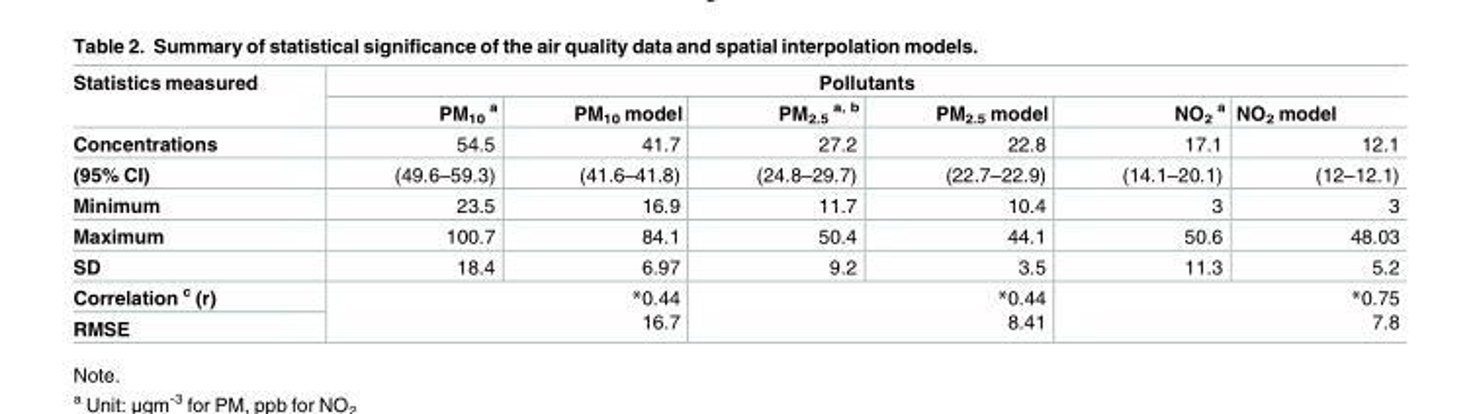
<table><thead><tr><td rowspan="2">Statistics measured</td><td colspan="6">Pollutants</td></tr><tr><td>PM<sub>10</sub> <sup>a</sup></td><td>PM<sub>10</sub> model</td><td>PM<sub>2.5</sub> <sup>a, b</sup></td><td>PM<sub>2.5</sub> model</td><td>NO<sub>2</sub> <sup>a</sup></td><td>NO<sub>2</sub> model</td></tr></thead><tbody><tr><td>Concentrations</td><td>54.5</td><td>41.7</td><td>27.2</td><td>22.8</td><td>17.1</td><td>12.1</td></tr><tr><td>(95% CI)</td><td>(49.6–59.3)</td><td>(41.6–41.8)</td><td>(24.8–29.7)</td><td>(22.7–22.9)</td><td>(14.1–20.1)</td><td>(12–12.1)</td></tr><tr><td>Minimum</td><td>23.5</td><td>16.9</td><td>11.7</td><td>10.4</td><td>3</td><td>3</td></tr><tr><td>Maximum</td><td>100.7</td><td>84.1</td><td>50.4</td><td>44.1</td><td>50.6</td><td>48.03</td></tr><tr><td>SD</td><td>18.4</td><td>6.97</td><td>9.2</td><td>3.5</td><td>11.3</td><td>5.2</td></tr><tr><td>Correlation <sup>c</sup> (r)</td><td rowspan="2" colspan="2">*0.44 16.7</td><td rowspan="2" colspan="2">*0.44 8.41</td><td rowspan="2" colspan="2">*0.75 7.8</td></tr><tr><td>RMSE</td></tr></tbody></table>